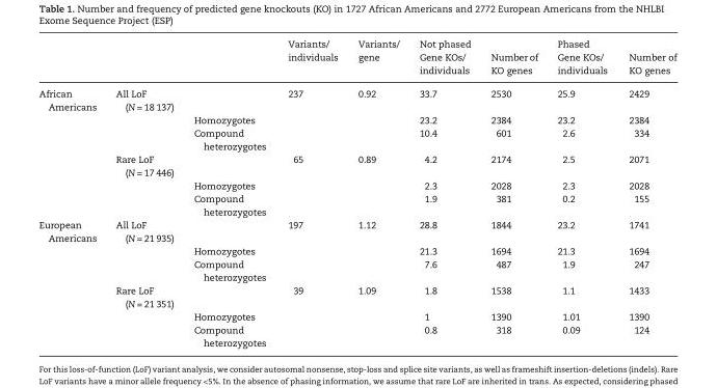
<table><thead><tr><td rowspan="2"></td><td rowspan="2"></td><td rowspan="2"></td><td rowspan="2">Variants/ individuals</td><td rowspan="2">Variants/ gene</td><td colspan="2">Not phased</td><td colspan="2">Phased</td></tr><tr><td>Gene KOs/ individuals</td><td>Number of KO genes</td><td>Gene KOs/ individuals</td><td>Number of KO genes</td></tr></thead><tbody><tr><td rowspan="6">African Americans</td><td>All LoF (N = 18 137)</td><td></td><td>237</td><td>0.92</td><td>33.7</td><td>2530</td><td>25.9</td><td>2429</td></tr><tr><td></td><td>Homozygotes</td><td></td><td></td><td>23.2</td><td>2384</td><td>23.2</td><td>2384</td></tr><tr><td></td><td>Compound heterozygotes</td><td></td><td></td><td>10.4</td><td>601</td><td>2.6</td><td>334</td></tr><tr><td>Rare LoF (N = 17 446)</td><td></td><td>65</td><td>0.89</td><td>4.2</td><td>2174</td><td>2.5</td><td>2071</td></tr><tr><td></td><td>Homozygotes</td><td></td><td></td><td>2.3</td><td>2028</td><td>2.3</td><td>2028</td></tr><tr><td></td><td>Compound heterozygotes</td><td></td><td></td><td>1.9</td><td>381</td><td>0.2</td><td>155</td></tr><tr><td rowspan="6">European Americans</td><td>All LoF (N = 21 935)</td><td></td><td>197</td><td>1.12</td><td>28.8</td><td>1844</td><td>23.2</td><td>1741</td></tr><tr><td></td><td>Homozygotes</td><td></td><td></td><td>21.3</td><td>1694</td><td>21.3</td><td>1694</td></tr><tr><td></td><td>Compound heterozygotes</td><td></td><td></td><td>7.6</td><td>487</td><td>1.9</td><td>247</td></tr><tr><td>Rare LoF (N = 21 351)</td><td></td><td>39</td><td>1.09</td><td>1.8</td><td>1538</td><td>1.1</td><td>1433</td></tr><tr><td></td><td>Homozygotes</td><td></td><td></td><td>1</td><td>1390</td><td>1.01</td><td>1390</td></tr><tr><td></td><td>Compound heterozygotes</td><td></td><td></td><td>0.8</td><td>318</td><td>0.09</td><td>124</td></tr></tbody></table>